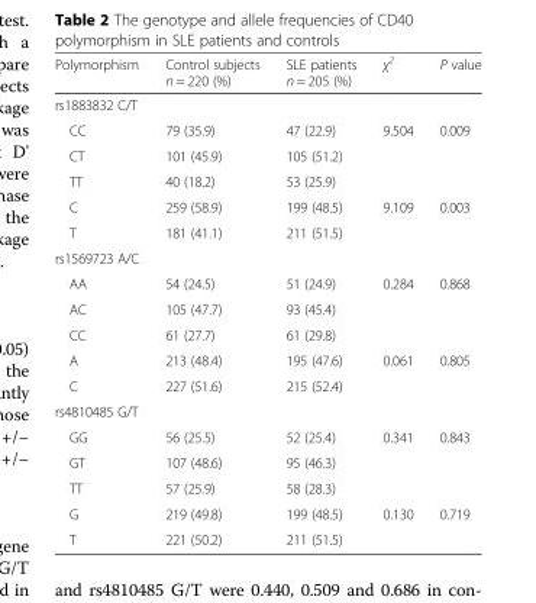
<table><thead><tr><td>Polymorphism</td><td>Control subjects n = 220 (%)</td><td>SLE patients n = 205 (%)</td><td>χ<sup>2</sup></td><td>P value</td></tr></thead><tbody><tr><td colspan="5">rs1883832 C/T</td></tr><tr><td>CC</td><td>79 (35.9)</td><td>47 (22.9)</td><td>9.504</td><td>0.009</td></tr><tr><td>CT</td><td>101 (45.9)</td><td>105 (51.2)</td><td></td><td></td></tr><tr><td>TT</td><td>40 (18.2)</td><td>53 (25.9)</td><td></td><td></td></tr><tr><td>C</td><td>259 (58.9)</td><td>199 (48.5)</td><td>9.109</td><td>0.003</td></tr><tr><td>T</td><td>181 (41.1)</td><td>211 (51.5)</td><td></td><td></td></tr><tr><td colspan="5">rs1569723 A/C</td></tr><tr><td>AA</td><td>54 (24.5)</td><td>51 (24.9)</td><td>0.284</td><td>0.868</td></tr><tr><td>AC</td><td>105 (47.7)</td><td>93 (45.4)</td><td></td><td></td></tr><tr><td>CC</td><td>61 (27.7)</td><td>61 (29.8)</td><td></td><td></td></tr><tr><td>A</td><td>213 (48.4)</td><td>195 (47.6)</td><td>0.061</td><td>0.805</td></tr><tr><td>C</td><td>227 (51.6)</td><td>215 (52.4)</td><td></td><td></td></tr><tr><td colspan="5">rs4810485 G/T</td></tr><tr><td>GG</td><td>56 (25.5)</td><td>52 (25.4)</td><td>0.341</td><td>0.843</td></tr><tr><td>GT</td><td>107 (48.6)</td><td>95 (46.3)</td><td></td><td></td></tr><tr><td>TT</td><td>57 (25.9)</td><td>58 (28.3)</td><td></td><td></td></tr><tr><td>G</td><td>219 (49.8)</td><td>199 (48.5)</td><td>0.130</td><td>0.719</td></tr><tr><td>T</td><td>221 (50.2)</td><td>211 (51.5)</td><td></td><td></td></tr></tbody></table>